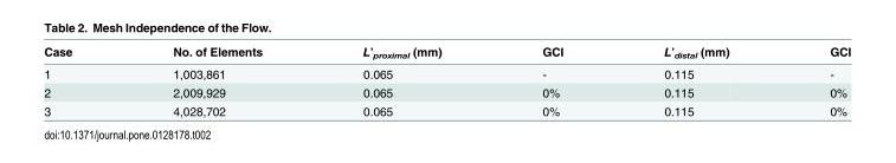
<table><thead><tr><td>Case</td><td>No. of Elements</td><td>L’<sub>proximal</sub> (mm)</td><td>GCI</td><td>L’<sub>distal</sub> (mm)</td><td>GCI</td></tr></thead><tbody><tr><td>1</td><td>1,003,861</td><td>0.065</td><td>-</td><td>0.115</td><td>-</td></tr><tr><td>2</td><td>2,009,929</td><td>0.065</td><td>0%</td><td>0.115</td><td>0%</td></tr><tr><td>3</td><td>4,028,702</td><td>0.065</td><td>0%</td><td>0.115</td><td>0%</td></tr></tbody></table>